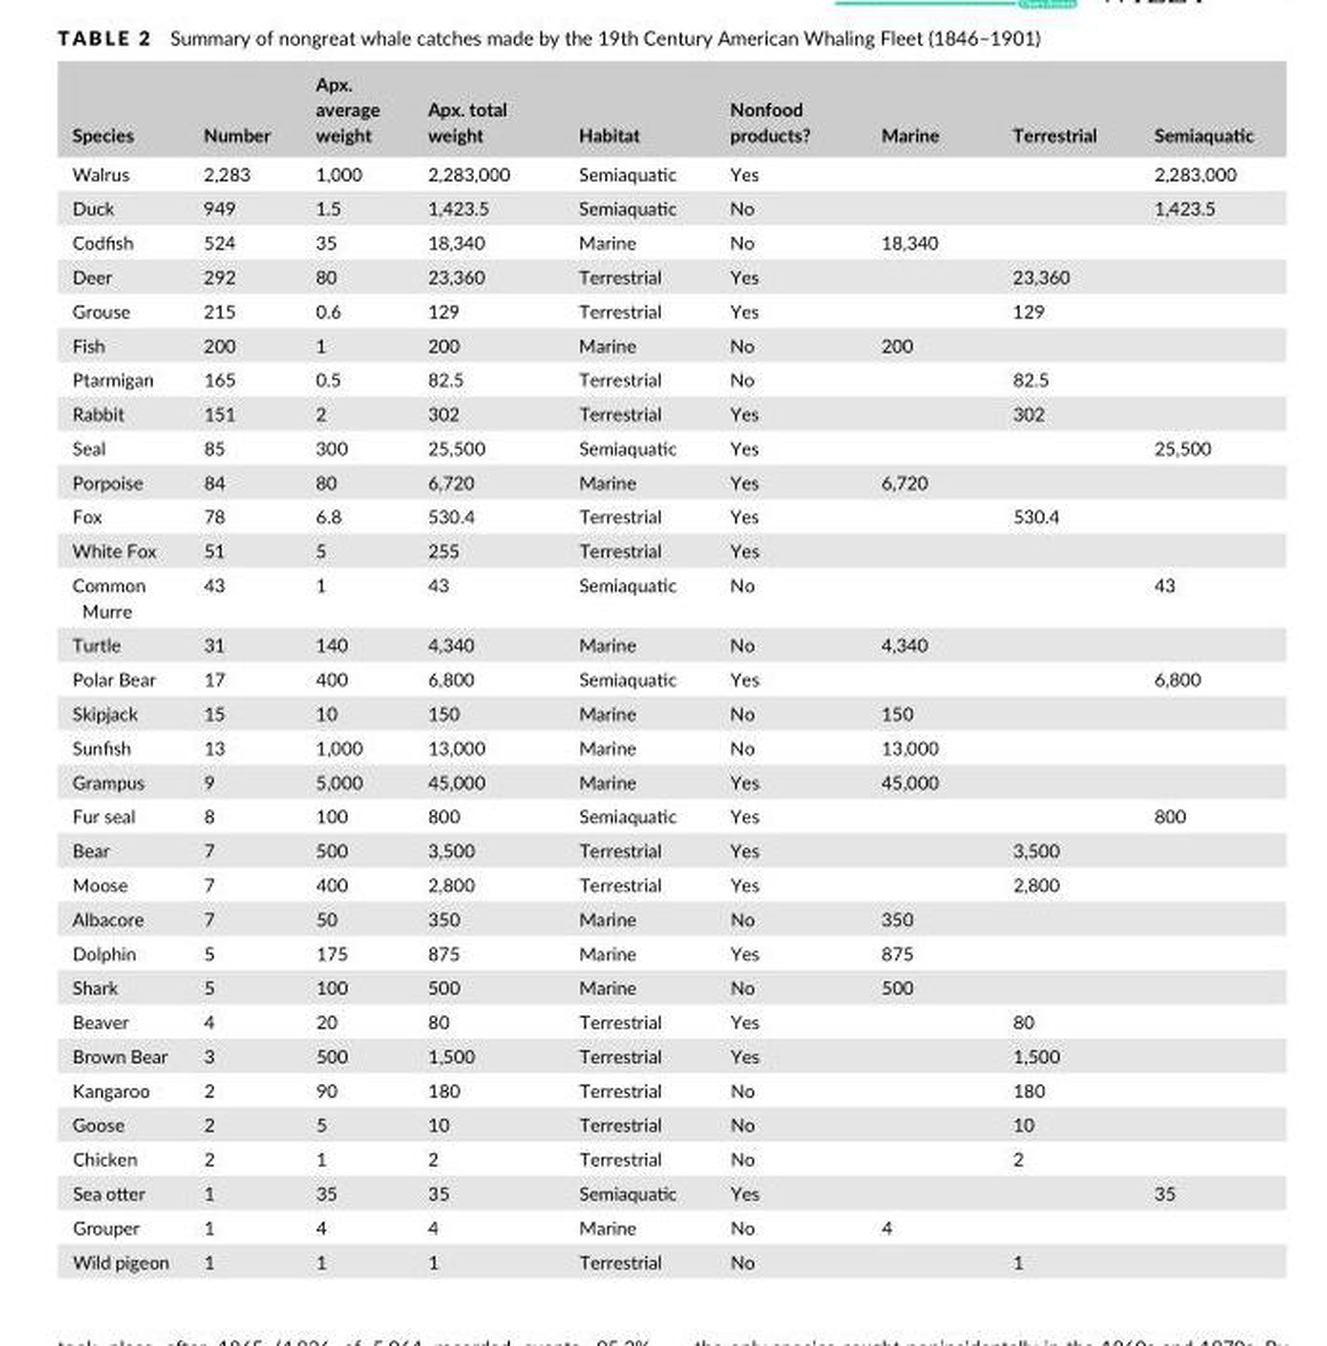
<table><thead><tr><td>Species</td><td>Number</td><td>Apx. average weight</td><td>Apx. total weight</td><td>Habitat</td><td>Nonfood products?</td><td>Marine</td><td>Terrestrial</td><td>Semiaquatic</td></tr></thead><tbody><tr><td>Walrus</td><td>2,283</td><td>1,000</td><td>2,283,000</td><td>Semiaquatic</td><td>Yes</td><td></td><td></td><td>2,283,000</td></tr><tr><td>Duck</td><td>949</td><td>1.5</td><td>1,423.5</td><td>Semiaquatic</td><td>No</td><td></td><td></td><td>1,423.5</td></tr><tr><td>Codfish</td><td>524</td><td>35</td><td>18,340</td><td>Marine</td><td>No</td><td>18,340</td><td></td><td></td></tr><tr><td>Deer</td><td>292</td><td>80</td><td>23,360</td><td>Terrestrial</td><td>Yes</td><td></td><td>23,360</td><td></td></tr><tr><td>Grouse</td><td>215</td><td>0.6</td><td>129</td><td>Terrestrial</td><td>Yes</td><td></td><td>129</td><td></td></tr><tr><td>Fish</td><td>200</td><td>1</td><td>200</td><td>Marine</td><td>No</td><td>200</td><td></td><td></td></tr><tr><td>Ptarmigan</td><td>165</td><td>0.5</td><td>82.5</td><td>Terrestrial</td><td>No</td><td></td><td>82.5</td><td></td></tr><tr><td>Rabbit</td><td>151</td><td>2</td><td>302</td><td>Terrestrial</td><td>Yes</td><td></td><td>302</td><td></td></tr><tr><td>Seal</td><td>85</td><td>300</td><td>25,500</td><td>Semiaquatic</td><td>Yes</td><td></td><td></td><td>25,500</td></tr><tr><td>Porpoise</td><td>84</td><td>80</td><td>6,720</td><td>Marine</td><td>Yes</td><td>6,720</td><td></td><td></td></tr><tr><td>Fox</td><td>78</td><td>6.8</td><td>530.4</td><td>Terrestrial</td><td>Yes</td><td></td><td>530.4</td><td></td></tr><tr><td>White Fox</td><td>51</td><td>5</td><td>255</td><td>Terrestrial</td><td>Yes</td><td></td><td></td><td></td></tr><tr><td>Common Murre</td><td>43</td><td>1</td><td>43</td><td>Semiaquatic</td><td>No</td><td></td><td></td><td>43</td></tr><tr><td>Turtle</td><td>31</td><td>140</td><td>4,340</td><td>Marine</td><td>No</td><td>4,340</td><td></td><td></td></tr><tr><td>Polar Bear</td><td>17</td><td>400</td><td>6,800</td><td>Semiaquatic</td><td>Yes</td><td></td><td></td><td>6,800</td></tr><tr><td>Skipjack</td><td>15</td><td>10</td><td>150</td><td>Marine</td><td>No</td><td>150</td><td></td><td></td></tr><tr><td>Sunfish</td><td>13</td><td>1,000</td><td>13,000</td><td>Marine</td><td>No</td><td>13,000</td><td></td><td></td></tr><tr><td>Grampus</td><td>9</td><td>5,000</td><td>45,000</td><td>Marine</td><td>Yes</td><td>45,000</td><td></td><td></td></tr><tr><td>Fur seal</td><td>8</td><td>100</td><td>800</td><td>Semiaquatic</td><td>Yes</td><td></td><td></td><td>800</td></tr><tr><td>Bear</td><td>7</td><td>500</td><td>3,500</td><td>Terrestrial</td><td>Yes</td><td></td><td>3,500</td><td></td></tr><tr><td>Moose</td><td>7</td><td>400</td><td>2,800</td><td>Terrestrial</td><td>Yes</td><td></td><td>2,800</td><td></td></tr><tr><td>Albacore</td><td>7</td><td>50</td><td>350</td><td>Marine</td><td>No</td><td>350</td><td></td><td></td></tr><tr><td>Dolphin</td><td>5</td><td>175</td><td>875</td><td>Marine</td><td>Yes</td><td>875</td><td></td><td></td></tr><tr><td>Shark</td><td>5</td><td>100</td><td>500</td><td>Marine</td><td>No</td><td>500</td><td></td><td></td></tr><tr><td>Beaver</td><td>4</td><td>20</td><td>80</td><td>Terrestrial</td><td>Yes</td><td></td><td>80</td><td></td></tr><tr><td>Brown Bear</td><td>3</td><td>500</td><td>1,500</td><td>Terrestrial</td><td>Yes</td><td></td><td>1,500</td><td></td></tr><tr><td>Kangaroo</td><td>2</td><td>90</td><td>180</td><td>Terrestrial</td><td>No</td><td></td><td>180</td><td></td></tr><tr><td>Goose</td><td>2</td><td>5</td><td>10</td><td>Terrestrial</td><td>No</td><td></td><td>10</td><td></td></tr><tr><td>Chicken</td><td>2</td><td>1</td><td>2</td><td>Terrestrial</td><td>No</td><td></td><td>2</td><td></td></tr><tr><td>Sea otter</td><td>1</td><td>35</td><td>35</td><td>Semiaquatic</td><td>Yes</td><td></td><td></td><td>35</td></tr><tr><td>Grouper</td><td>1</td><td>4</td><td>4</td><td>Marine</td><td>No</td><td>4</td><td></td><td></td></tr><tr><td>Wild pigeon</td><td>1</td><td>1</td><td>1</td><td>Terrestrial</td><td>No</td><td></td><td>1</td><td></td></tr></tbody></table>